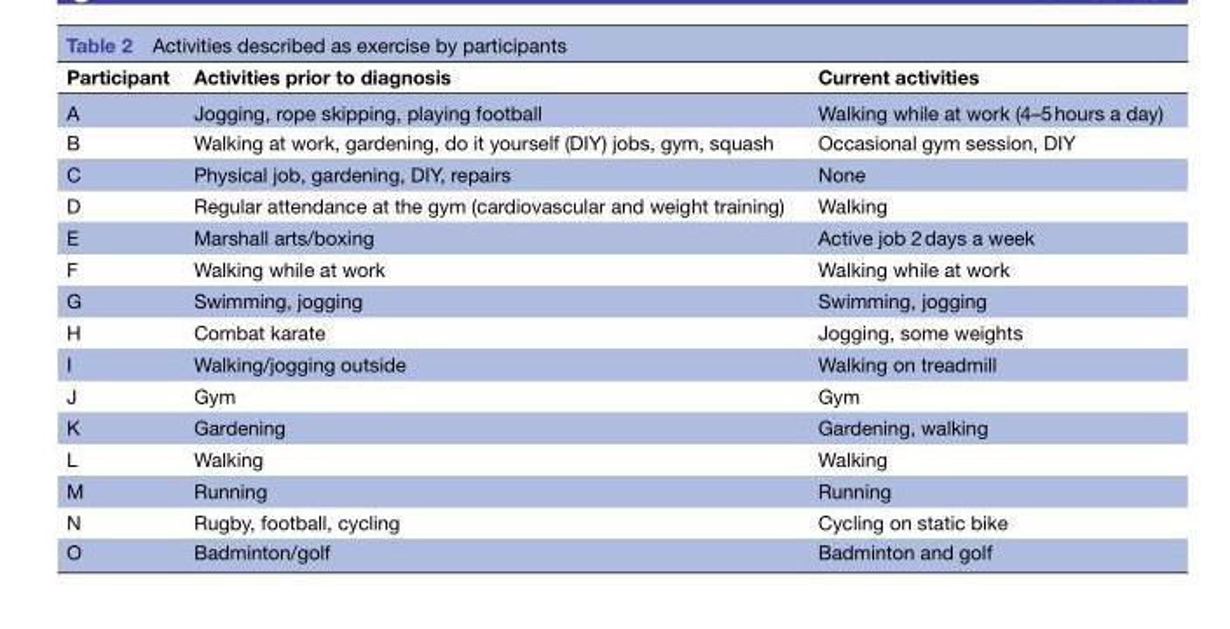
<table><thead><tr><td>Participant</td><td>Activities prior to diagnosis</td><td>Current activities</td></tr></thead><tbody><tr><td>A</td><td>Jogging, rope skipping, playing football</td><td>Walking while at work (4–5 hours a day)</td></tr><tr><td>B</td><td>Walking at work, gardening, do it yourself (DIY) jobs, gym, squash</td><td>Occasional gym session, DIY</td></tr><tr><td>C</td><td>Physical job, gardening, DIY, repairs</td><td>None</td></tr><tr><td>D</td><td>Regular attendance at the gym (cardiovascular and weight training)</td><td>Walking</td></tr><tr><td>E</td><td>Marshall arts/boxing</td><td>Active job 2 days a week</td></tr><tr><td>F</td><td>Walking while at work</td><td>Walking while at work</td></tr><tr><td>G</td><td>Swimming, jogging</td><td>Swimming, jogging</td></tr><tr><td>H</td><td>Combat karate</td><td>Jogging, some weights</td></tr><tr><td>I</td><td>Walking/jogging outside</td><td>Walking on treadmill</td></tr><tr><td>J</td><td>Gym</td><td>Gym</td></tr><tr><td>K</td><td>Gardening</td><td>Gardening, walking</td></tr><tr><td>L</td><td>Walking</td><td>Walking</td></tr><tr><td>M</td><td>Running</td><td>Running</td></tr><tr><td>N</td><td>Rugby, football, cycling</td><td>Cycling on static bike</td></tr><tr><td>O</td><td>Badminton/golf</td><td>Badminton and golf</td></tr></tbody></table>